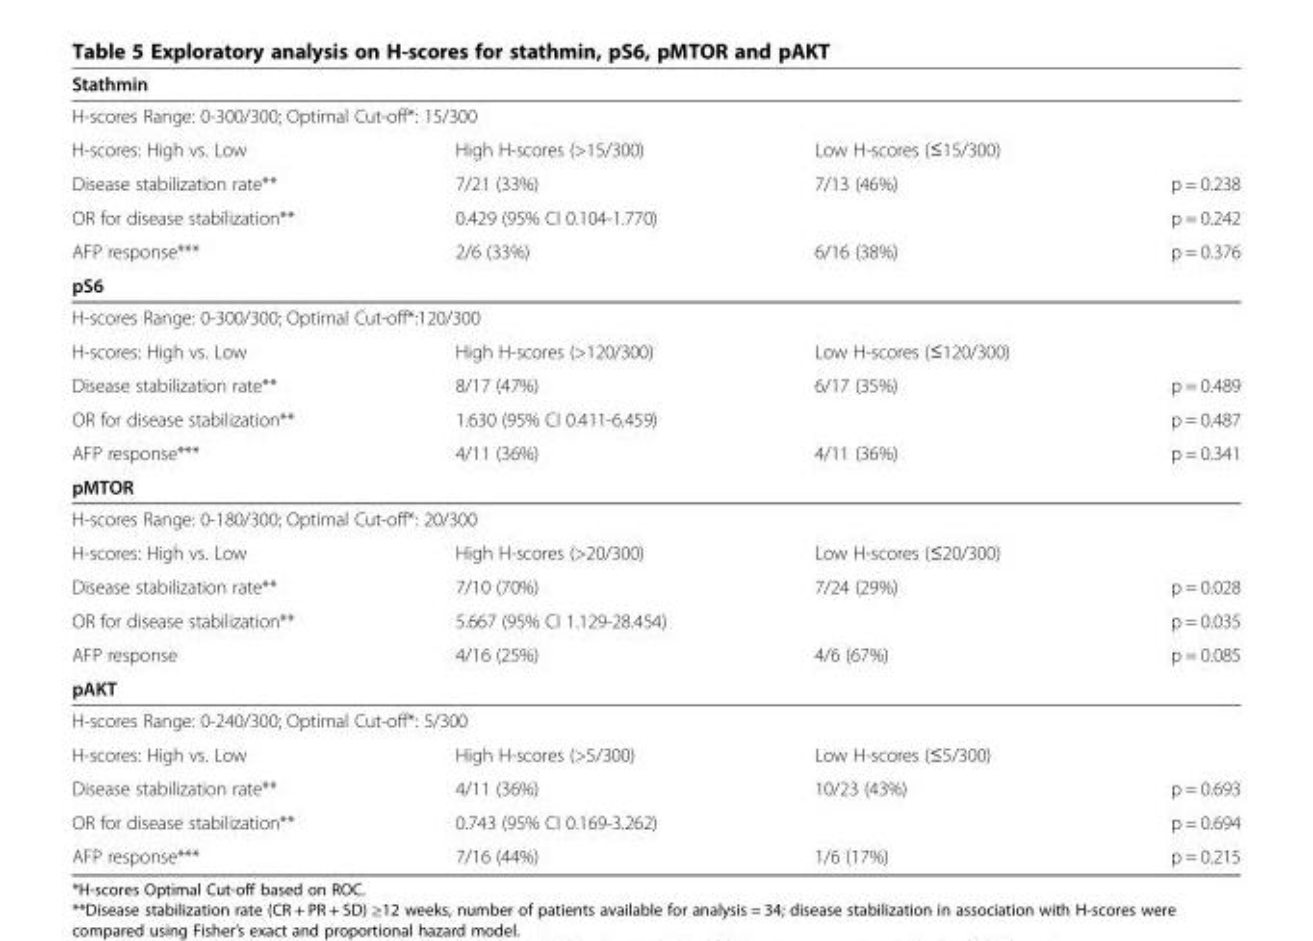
<table><thead><tr><td rowspan="2" colspan="4">Stathmin H-scores Range: 0-300/300; Optimal Cut-off*: 15/300</td></tr><tr></tr><tr><td>H-scores: High vs. Low</td><td>High H-scores (&gt;15/300)</td><td>Low H-scores (≤15/300)</td><td></td></tr></thead><tbody><tr><td>Disease stabilization rate**</td><td>7/21 (33%)</td><td>7/13 (46%)</td><td>p = 0.238</td></tr><tr><td>OR for disease stabilization**</td><td colspan="2">0.429 (95% CI 0.104-1.770)</td><td>p = 0.242</td></tr><tr><td>AFP response***</td><td>2/6 (33%)</td><td>6/16 (38%)</td><td>p = 0.376</td></tr><tr><td colspan="4">pS6</td></tr><tr><td colspan="4">H-scores Range: 0-300/300; Optimal Cut-off*:120/300</td></tr><tr><td>H-scores: High vs. Low</td><td>High H-scores (&gt;120/300)</td><td>Low H-scores (≤120/300)</td><td></td></tr><tr><td>Disease stabilization rate**</td><td>8/17 (47%)</td><td>6/17 (35%)</td><td>p = 0.489</td></tr><tr><td>OR for disease stabilization**</td><td colspan="2">1.630 (95% CI 0.411-6.459)</td><td>p = 0.487</td></tr><tr><td>AFP response***</td><td>4/11 (36%)</td><td>4/11 (36%)</td><td>p = 0.341</td></tr><tr><td colspan="4">pMTOR</td></tr><tr><td colspan="4">H-scores Range: 0-180/300; Optimal Cut-off*: 20/300</td></tr><tr><td>H-scores: High vs. Low</td><td>High H-scores (&gt;20/300)</td><td>Low H-scores (≤20/300)</td><td></td></tr><tr><td>Disease stabilization rate**</td><td>7/10 (70%)</td><td>7/24 (29%)</td><td>p = 0.028</td></tr><tr><td>OR for disease stabilization**</td><td colspan="2">5.667 (95% CI 1.129-28.454)</td><td>p = 0.035</td></tr><tr><td>AFP response</td><td>4/16 (25%)</td><td>4/6 (67%)</td><td>p = 0.085</td></tr><tr><td colspan="4">pAKT</td></tr><tr><td colspan="4">H-scores Range: 0-240/300; Optimal Cut-off*: 5/300</td></tr><tr><td>H-scores: High vs. Low</td><td>High H-scores (&gt;5/300)</td><td>Low H-scores (≤5/300)</td><td></td></tr><tr><td>Disease stabilization rate**</td><td>4/11 (36%)</td><td>10/23 (43%)</td><td>p = 0.693</td></tr><tr><td>OR for disease stabilization**</td><td colspan="2">0.743 (95% CI 0.169-3.262)</td><td>p = 0.694</td></tr><tr><td>AFP response***</td><td>7/16 (44%)</td><td>1/6 (17%)</td><td>p = 0.215</td></tr></tbody></table>